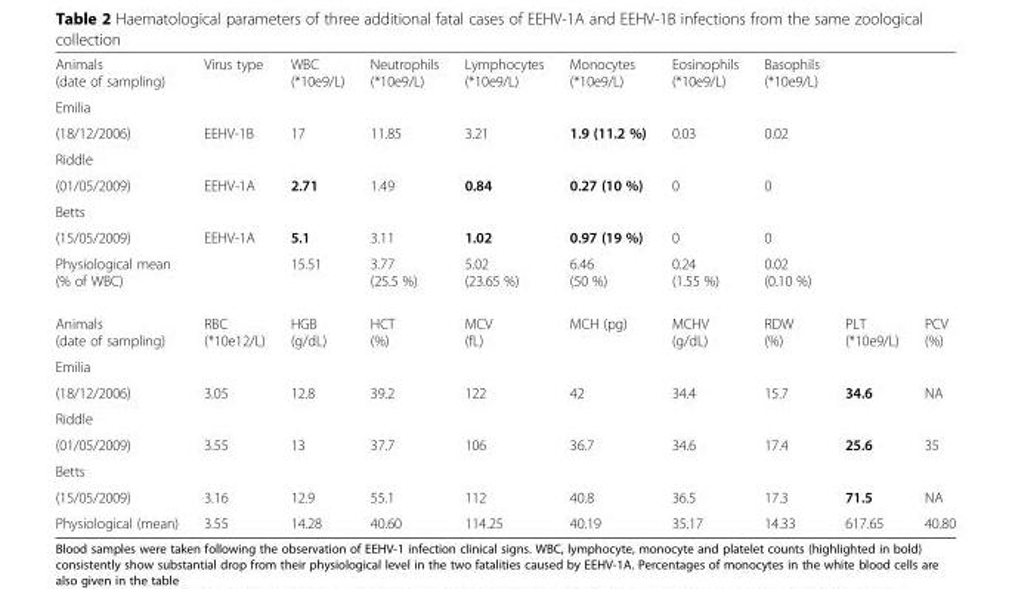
<table><tbody><tr><td>Animals (date of sampling)</td><td>Virus type</td><td>WBC (*10e9/L)</td><td>Neutrophils (*10e9/L)</td><td>Lymphocytes (*10e9/L)</td><td>Monocytes (*10e9/L)</td><td>Eosinophils (*10e9/L)</td><td>Basophils (*10e9/L)</td><td></td><td></td></tr><tr><td colspan="10">Emilia</td></tr><tr><td>(18/12/2006)</td><td>EEHV-1B</td><td>17</td><td>11.85</td><td>3.21</td><td>1.9 (11.2 %)</td><td>0.03</td><td>0.02</td><td></td><td></td></tr><tr><td colspan="10">Riddle</td></tr><tr><td>(01/05/2009)</td><td>EEHV-1A</td><td>2.71</td><td>1.49</td><td>0.84</td><td>0.27 (10 %)</td><td>0</td><td>0</td><td></td><td></td></tr><tr><td colspan="10">Betts</td></tr><tr><td>(15/05/2009)</td><td>EEHV-1A</td><td>5.1</td><td>3.11</td><td>1.02</td><td>0.97 (19 %)</td><td>0</td><td>0</td><td></td><td></td></tr><tr><td>Physiological mean (% of WBC)</td><td></td><td>15.51</td><td>3.77 (25.5 %)</td><td>5.02 (23.65 %)</td><td>6.46 (50 %)</td><td>0.24 (1.55 %)</td><td>0.02 (0.10 %)</td><td></td><td></td></tr><tr><td>Animals (date of sampling)</td><td>RBC (*10e12/L)</td><td>HGB (g/dL)</td><td>HCT (%)</td><td>MCV (fL)</td><td>MCH (pg)</td><td>MCHV (g/dL)</td><td>RDW (%)</td><td>PLT (*10e9/L)</td><td>PCV (%)</td></tr><tr><td colspan="10">Emilia</td></tr><tr><td>(18/12/2006)</td><td>3.05</td><td>12.8</td><td>39.2</td><td>122</td><td>42</td><td>34.4</td><td>15.7</td><td>34.6</td><td>NA</td></tr><tr><td colspan="10">Riddle</td></tr><tr><td>(01/05/2009)</td><td>3.55</td><td>13</td><td>37.7</td><td>106</td><td>36.7</td><td>34.6</td><td>17.4</td><td>25.6</td><td>35</td></tr><tr><td colspan="10">Betts</td></tr><tr><td>(15/05/2009)</td><td>3.16</td><td>12.9</td><td>55.1</td><td>112</td><td>40.8</td><td>36.5</td><td>17.3</td><td>71.5</td><td>NA</td></tr><tr><td>Physiological (mean)</td><td>3.55</td><td>14.28</td><td>40.60</td><td>114.25</td><td>40.19</td><td>35.17</td><td>14.33</td><td>617.65</td><td>40.80</td></tr></tbody></table>